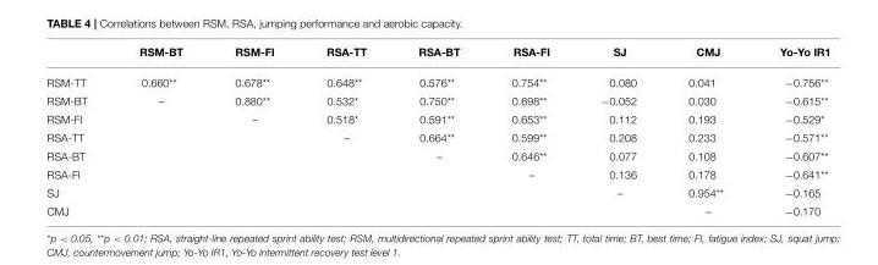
<table><thead><tr><td></td><td>RSM-BT</td><td>RSM-FI</td><td>RSA-TT</td><td>RSA-BT</td><td>RSA-FI</td><td>SJ</td><td>CMJ</td><td>Yo-Yo IR1</td></tr></thead><tbody><tr><td>RSM-TT</td><td>0.660**</td><td>0.678**</td><td>0.648**</td><td>0.576**</td><td>0.754**</td><td>0.080</td><td>0.041</td><td>−0.756**</td></tr><tr><td>RSM-BT</td><td>–</td><td>0.880**</td><td>0.532*</td><td>0.750**</td><td>0.698**</td><td>−0.052</td><td>0.030</td><td>−0.615**</td></tr><tr><td>RSM-FI</td><td></td><td>–</td><td>0.518*</td><td>0.591**</td><td>0.653**</td><td>0.112</td><td>0.193</td><td>−0.529*</td></tr><tr><td>RSA-TT</td><td></td><td></td><td>–</td><td>0.664**</td><td>0.599**</td><td>0.208</td><td>0.233</td><td>−0.571**</td></tr><tr><td>RSA-BT</td><td></td><td></td><td></td><td>–</td><td>0.646**</td><td>0.077</td><td>0.108</td><td>−0.607**</td></tr><tr><td>RSA-FI</td><td></td><td></td><td></td><td></td><td>–</td><td>0.136</td><td>0.178</td><td>−0.641**</td></tr><tr><td>SJ</td><td></td><td></td><td></td><td></td><td></td><td>–</td><td>0.954**</td><td>−0.165</td></tr><tr><td>CMJ</td><td></td><td></td><td></td><td></td><td></td><td></td><td>–</td><td>−0.170</td></tr></tbody></table>